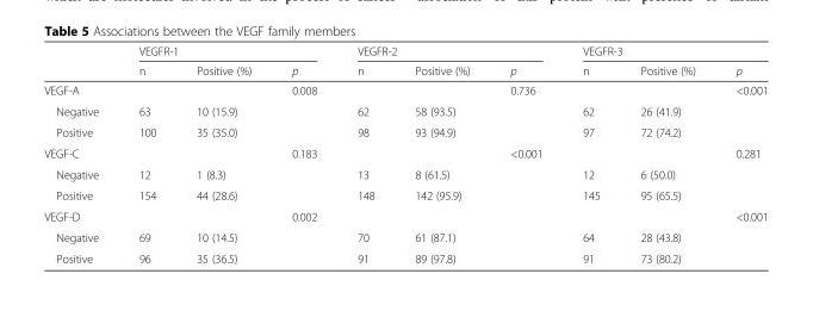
<table><thead><tr><td rowspan="2"></td><td colspan="3">VEGFR-1</td><td colspan="3">VEGFR-2</td><td colspan="3">VEGFR-3</td></tr><tr><td>n</td><td>Positive (%)</td><td>p</td><td>n</td><td>Positive (%)</td><td>p</td><td>n</td><td>Positive (%)</td><td>p</td></tr></thead><tbody><tr><td>VEGF-A</td><td></td><td></td><td>0.008</td><td></td><td></td><td>0.736</td><td></td><td></td><td>&lt;0.001</td></tr><tr><td>Negative</td><td>63</td><td>10 (15.9)</td><td></td><td>62</td><td>58 (93.5)</td><td></td><td>62</td><td>26 (41.9)</td><td></td></tr><tr><td>Positive</td><td>100</td><td>35 (35.0)</td><td></td><td>98</td><td>93 (94.9)</td><td></td><td>97</td><td>72 (74.2)</td><td></td></tr><tr><td>VEGF-C</td><td></td><td></td><td>0.183</td><td></td><td></td><td>&lt;0.001</td><td></td><td></td><td>0.281</td></tr><tr><td>Negative</td><td>12</td><td>1 (8.3)</td><td></td><td>13</td><td>8 (61.5)</td><td></td><td>12</td><td>6 (50.0)</td><td></td></tr><tr><td>Positive</td><td>154</td><td>44 (28.6)</td><td></td><td>148</td><td>142 (95.9)</td><td></td><td>145</td><td>95 (65.5)</td><td></td></tr><tr><td>VEGF-D</td><td></td><td></td><td>0.002</td><td></td><td></td><td></td><td></td><td></td><td>&lt;0.001</td></tr><tr><td>Negative</td><td>69</td><td>10 (14.5)</td><td></td><td>70</td><td>61 (87.1)</td><td></td><td>64</td><td>28 (43.8)</td><td></td></tr><tr><td>Positive</td><td>96</td><td>35 (36.5)</td><td></td><td>91</td><td>89 (97.8)</td><td></td><td>91</td><td>73 (80.2)</td><td></td></tr></tbody></table>